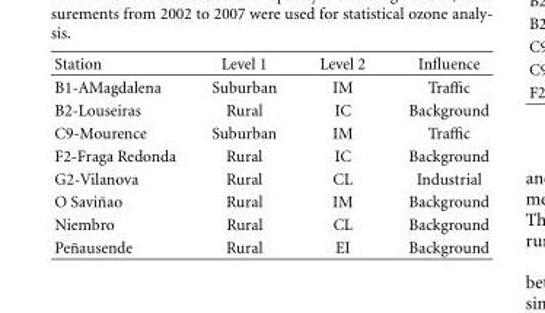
<table><thead><tr><td>Station</td><td>Level 1</td><td>Level 2</td><td>Influence</td></tr></thead><tbody><tr><td>B1-AMagdalena</td><td>Suburban</td><td>IM</td><td>Traffic</td></tr><tr><td>B2-Louseiras</td><td>Rural</td><td>IC</td><td>Background</td></tr><tr><td>C9-Mourence</td><td>Suburban</td><td>IM</td><td>Traffic</td></tr><tr><td>F2-Fraga Redonda</td><td>Rural</td><td>IC</td><td>Background</td></tr><tr><td>G2-Vilanova</td><td>Rural</td><td>CL</td><td>Industrial</td></tr><tr><td>O Savi˜nao</td><td>Rural</td><td>IM</td><td>Background</td></tr><tr><td>Niembro</td><td>Rural</td><td>CL</td><td>Background</td></tr><tr><td>Pe˜nausende</td><td>Rural</td><td>EI</td><td>Background</td></tr></tbody></table>